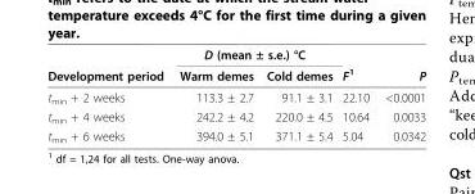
<table><thead><tr><td rowspan="2">Development period</td><td colspan="2">D (mean ± s.e.) °C</td><td rowspan="2">F<sup>1</sup></td><td rowspan="2">P</td></tr><tr><td>Warm demes</td><td>Cold demes</td></tr></thead><tbody><tr><td>t<sub>min</sub> + 2 weeks</td><td>113.3 ± 2.7</td><td>91.1 ± 3.1</td><td>22.10</td><td>&lt;0.0001</td></tr><tr><td>t<sub>min</sub> + 4 weeks</td><td>242.2 ± 4.2</td><td>220.0 ± 4.5</td><td>10.64</td><td>0.0033</td></tr><tr><td>t<sub>min</sub> + 6 weeks</td><td>394.0 ± 5.1</td><td>371.1 ± 5.4</td><td>5.04</td><td>0.0342</td></tr></tbody></table>